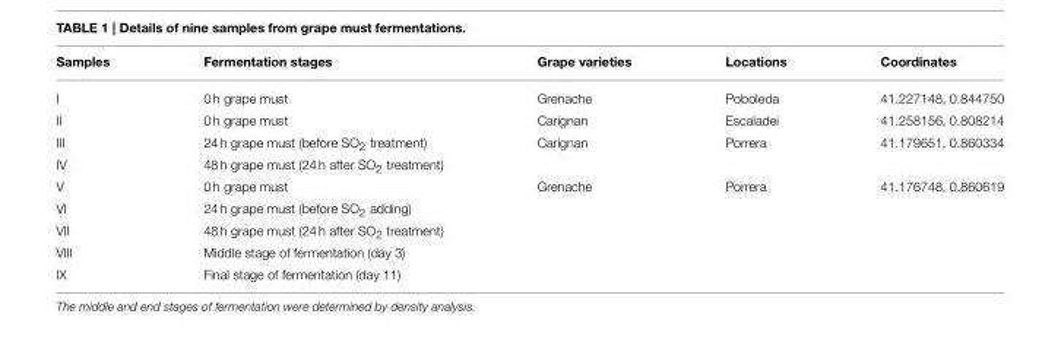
<table><thead><tr><td>Samples</td><td>Fermentation stages</td><td>Grape varieties</td><td>Locations</td><td>Coordinates</td></tr></thead><tbody><tr><td>I</td><td>0 h grape must</td><td>Grenache</td><td>Poboleda</td><td>41.227148, 0.844750</td></tr><tr><td>II</td><td>0 h grape must</td><td>Carignan</td><td>Escaladei</td><td>41.258156, 0.808214</td></tr><tr><td>III</td><td>24 h grape must (before SO<sub>2</sub> treatment)</td><td>Carignan</td><td>Porrera</td><td>41.179651, 0.860334</td></tr><tr><td>IV</td><td>48 h grape must (24 h after SO<sub>2</sub> treatment)</td><td></td><td></td><td></td></tr><tr><td>V</td><td>0 h grape must</td><td>Grenache</td><td>Porrera</td><td>41.176748, 0.860619</td></tr><tr><td>VI</td><td>24 h grape must (before SO<sub>2</sub> adding)</td><td></td><td></td><td></td></tr><tr><td>VII</td><td>48 h grape must (24 h after SO<sub>2</sub> treatment)</td><td></td><td></td><td></td></tr><tr><td>VIII</td><td>Middle stage of fermentation (day 3)</td><td></td><td></td><td></td></tr><tr><td>IX</td><td>Final stage of fermentation (day 11)</td><td></td><td></td><td></td></tr></tbody></table>